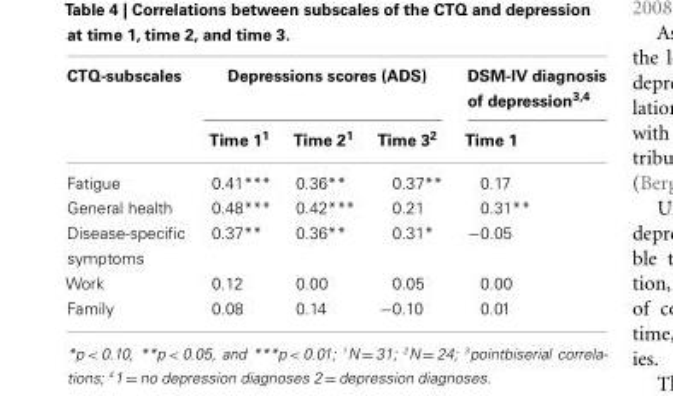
<table><thead><tr><td rowspan="2">CTQ-subscales</td><td colspan="3">Depressions scores (ADS)</td><td rowspan="2">DSM-IV diagnosis of depression<sup>3,4</sup> Time 1</td></tr><tr><td>Time 1<sup>1</sup></td><td>Time 2<sup>1</sup></td><td>Time 3<sup>2</sup></td></tr></thead><tbody><tr><td>Fatigue</td><td>0.41***</td><td>0.36**</td><td>0.37**</td><td>0.17</td></tr><tr><td>General health</td><td>0.48***</td><td>0.42***</td><td>0.21</td><td>0.31**</td></tr><tr><td>Disease-specific symptoms</td><td>0.37**</td><td>0.36**</td><td>0.31*</td><td>−0.05</td></tr><tr><td>Work</td><td>0.12</td><td>0.00</td><td>0.05</td><td>0.00</td></tr><tr><td>Family</td><td>0.08</td><td>0.14</td><td>−0.10</td><td>0.01</td></tr></tbody></table>